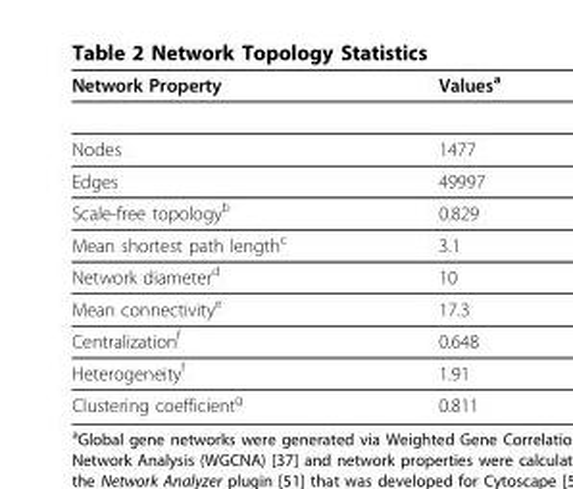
<table><thead><tr><td>Network Property</td><td>Values<sup>a</sup></td></tr></thead><tbody><tr><td>Nodes</td><td>1477</td></tr><tr><td>Edges</td><td>49997</td></tr><tr><td>Scale-free topology<sup>b</sup></td><td>0.829</td></tr><tr><td>Mean shortest path length<sup>c</sup></td><td>3.1</td></tr><tr><td>Network diameter<sup>d</sup></td><td>10</td></tr><tr><td>Mean connectivity<sup>e</sup></td><td>17.3</td></tr><tr><td>Centralization<sup>f</sup></td><td>0.648</td></tr><tr><td>Heterogeneity<sup>f</sup></td><td>1.91</td></tr><tr><td>Clustering coefficient<sup>g</sup></td><td>0.811</td></tr></tbody></table>